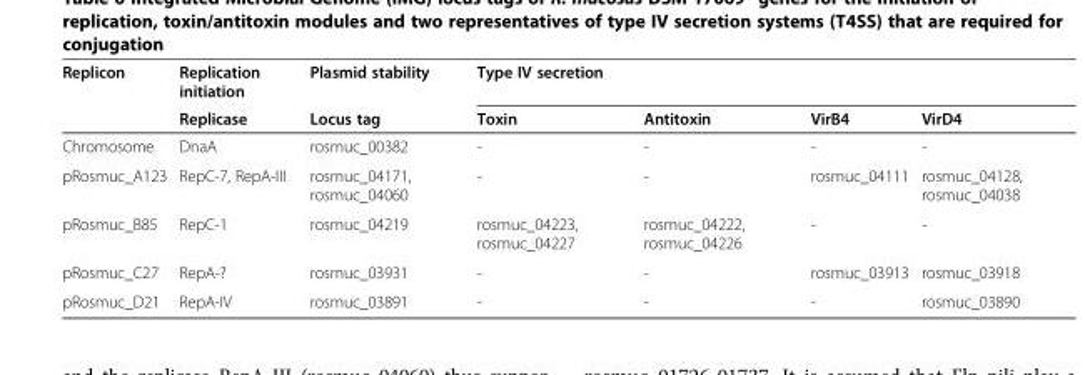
<table><thead><tr><td rowspan="2">Replicon</td><td rowspan="2">Replication initiation Replicase</td><td rowspan="2">Plasmid stability Locus tag</td><td colspan="4">Type IV secretion</td></tr><tr><td>Toxin</td><td>Antitoxin</td><td>VirB4</td><td>VirD4</td></tr></thead><tbody><tr><td>Chromosome</td><td>DnaA</td><td>rosmuc_00382</td><td>-</td><td>-</td><td>-</td><td>-</td></tr><tr><td>pRosmuc_A123</td><td>RepC-7, RepA-III</td><td>rosmuc_04171, rosmuc_04060</td><td>-</td><td>-</td><td>rosmuc_04111</td><td>rosmuc_04128, rosmuc_04038</td></tr><tr><td>pRosmuc_B85</td><td>RepC-1</td><td>rosmuc_04219</td><td>rosmuc_04223, rosmuc_04227</td><td>rosmuc_04222, rosmuc_04226</td><td>-</td><td>-</td></tr><tr><td>pRosmuc_C27</td><td>RepA-?</td><td>rosmuc_03931</td><td>-</td><td>-</td><td>rosmuc_03913</td><td>rosmuc_03918</td></tr><tr><td>pRosmuc_D21</td><td>RepA-IV</td><td>rosmuc_03891</td><td>-</td><td>-</td><td>-</td><td>rosmuc_03890</td></tr></tbody></table>